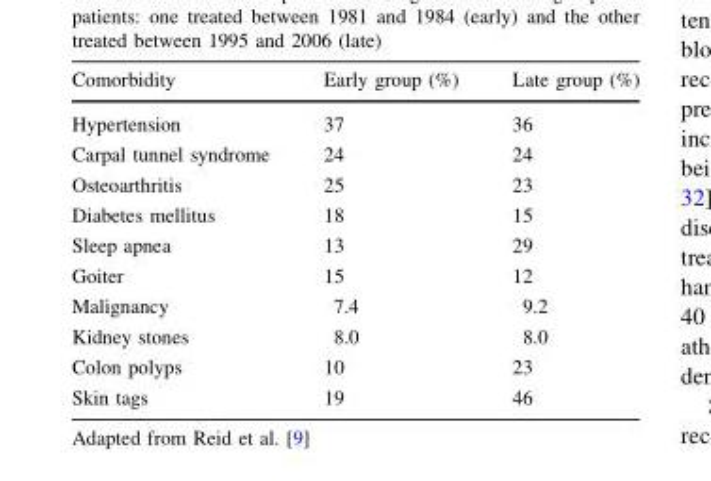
<table><thead><tr><td>Comorbidity</td><td>Early group (%)</td><td>Late group (%)</td></tr></thead><tbody><tr><td>Hypertension</td><td>37</td><td>36</td></tr><tr><td>Carpal tunnel syndrome</td><td>24</td><td>24</td></tr><tr><td>Osteoarthritis</td><td>25</td><td>23</td></tr><tr><td>Diabetes mellitus</td><td>18</td><td>15</td></tr><tr><td>Sleep apnea</td><td>13</td><td>29</td></tr><tr><td>Goiter</td><td>15</td><td>12</td></tr><tr><td>Malignancy</td><td>7.4</td><td>9.2</td></tr><tr><td>Kidney stones</td><td>8.0</td><td>8.0</td></tr><tr><td>Colon polyps</td><td>10</td><td>23</td></tr><tr><td>Skin tags</td><td>19</td><td>46</td></tr></tbody></table>